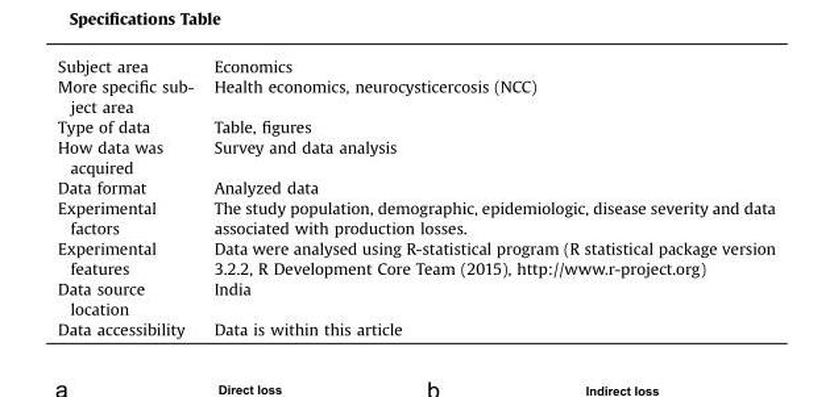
<table><tbody><tr><td>Subject area</td><td>Economics</td></tr><tr><td>More specific sub- ject area</td><td>Health economics, neurocysticercosis (NCC)</td></tr><tr><td>Type of data</td><td>Table, figures</td></tr><tr><td>How data was acquired</td><td>Survey and data analysis</td></tr><tr><td>Data format</td><td>Analyzed data</td></tr><tr><td>Experimental factors</td><td>The study population, demographic, epidemiologic, disease severity and data associated with production losses.</td></tr><tr><td>Experimental features</td><td>Data were analysed using R-statistical program (R statistical package version 3.2.2, R Development Core Team (2015), http://www.r-project.org)</td></tr><tr><td>Data source location</td><td>India</td></tr><tr><td>Data accessibility</td><td>Data is within this article</td></tr></tbody></table>